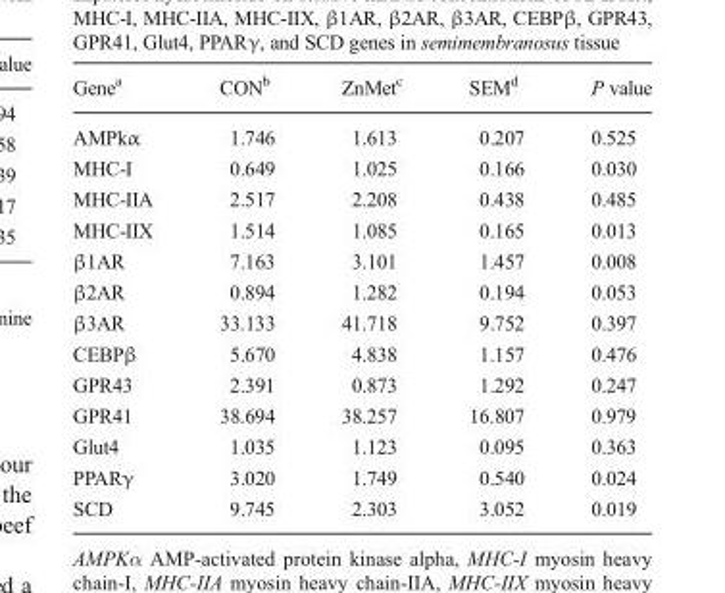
<table><thead><tr><td>Gene<sup>a</sup></td><td>CON<sup>b</sup></td><td>ZnMet<sup>c</sup></td><td>SEM<sup>d</sup></td><td>P value</td></tr></thead><tbody><tr><td>AMPkα</td><td>1.746</td><td>1.613</td><td>0.207</td><td>0.525</td></tr><tr><td>MHC-I</td><td>0.649</td><td>1.025</td><td>0.166</td><td>0.030</td></tr><tr><td>MHC-IIA</td><td>2.517</td><td>2.208</td><td>0.438</td><td>0.485</td></tr><tr><td>MHC-IIX</td><td>1.514</td><td>1.085</td><td>0.165</td><td>0.013</td></tr><tr><td>β1AR</td><td>7.163</td><td>3.101</td><td>1.457</td><td>0.008</td></tr><tr><td>β2AR</td><td>0.894</td><td>1.282</td><td>0.194</td><td>0.053</td></tr><tr><td>β3AR</td><td>33.133</td><td>41.718</td><td>9.752</td><td>0.397</td></tr><tr><td>CEBPβ</td><td>5.670</td><td>4.838</td><td>1.157</td><td>0.476</td></tr><tr><td>GPR43</td><td>2.391</td><td>0.873</td><td>1.292</td><td>0.247</td></tr><tr><td>GPR41</td><td>38.694</td><td>38.257</td><td>16.807</td><td>0.979</td></tr><tr><td>Glut4</td><td>1.035</td><td>1.123</td><td>0.095</td><td>0.363</td></tr><tr><td>PPARγ</td><td>3.020</td><td>1.749</td><td>0.540</td><td>0.024</td></tr><tr><td>SCD</td><td>9.745</td><td>2.303</td><td>3.052</td><td>0.019</td></tr></tbody></table>